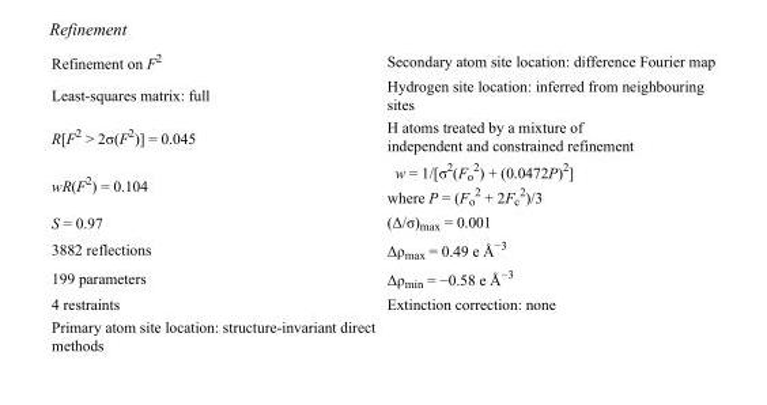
<table><tbody><tr><td>Refinement on F<sup>2</sup></td><td>Secondary atom site location: difference Fourier map</td></tr><tr><td>Least-squares matrix: full</td><td>Hydrogen site location: inferred from neighbouring sites</td></tr><tr><td>R[F<sup>2</sup> &gt; 2σ(F<sup>2</sup>)] = 0.045</td><td>H atoms treated by a mixture of independent and constrained refinement</td></tr><tr><td>wR(F<sup>2</sup>) = 0.104</td><td>w = 1/[σ<sup>2</sup>(F<sub>o</sub> <sup>2</sup>) + (0.0472P)<sup>2</sup>] where P = (F<sub>o</sub> <sup>2</sup> + 2F<sub>c</sub> <sup>2</sup>)/3</td></tr><tr><td>S = 0.97</td><td>(Δ/σ)<sub>max</sub> = 0.001</td></tr><tr><td>3882 reflections</td><td>Δρ<sub>max</sub> = 0.49 e Å<sup>−3</sup></td></tr><tr><td>199 parameters</td><td>Δρ<sub>min</sub> = −0.58 e Å<sup>−3</sup></td></tr><tr><td>4 restraints</td><td>Extinction correction: none</td></tr><tr><td>Primary atom site location: structure-invariant direct methods</td><td></td></tr></tbody></table>